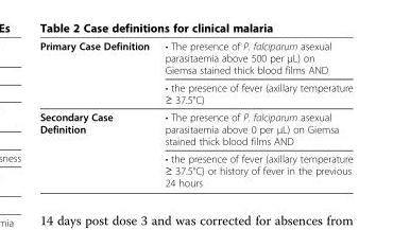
<table><tbody><tr><td rowspan="2">Primary Case Definition</td><td>• The presence of P. falciparum asexual parasitaemia above 500 per μL) on Giemsa stained thick blood films AND</td></tr><tr><td>• the presence of fever (axillary temperature ≥ 37.5°C)</td></tr><tr><td rowspan="2">Secondary Case Definition</td><td>• The presence of P. falciparum asexual parasitaemia above 0 per μL) on Giemsa stained thick blood films AND</td></tr><tr><td>• the presence of fever (axillary temperature ≥ 37.5°C) or history of fever in the previous 24 hours</td></tr></tbody></table>